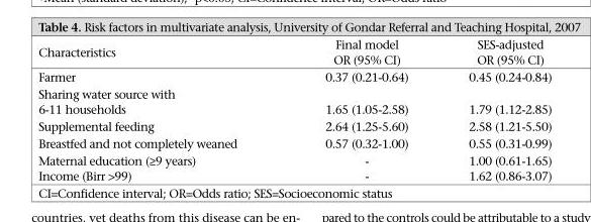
<table><thead><tr><td>Characteristics</td><td>Final model OR (95% CI)</td><td>SES-adjusted OR (95% CI)</td></tr></thead><tbody><tr><td>Farmer</td><td>0.37 (0.21-0.64)</td><td>0.45 (0.24-0.84)</td></tr><tr><td>Sharing water source with 6-11 households</td><td>1.65 (1.05-2.58)</td><td>1.79 (1.12-2.85)</td></tr><tr><td>Supplemental feeding</td><td>2.64 (1.25-5.60)</td><td>2.58 (1.21-5.50)</td></tr><tr><td>Breastfed and not completely weaned</td><td>0.57 (0.32-1.00)</td><td>0.55 (0.31-0.99)</td></tr><tr><td>Maternal education (≥9 years)</td><td>-</td><td>1.00 (0.61-1.65)</td></tr><tr><td>Income (Birr &gt;99)</td><td>-</td><td>1.62 (0.86-3.07)</td></tr></tbody></table>